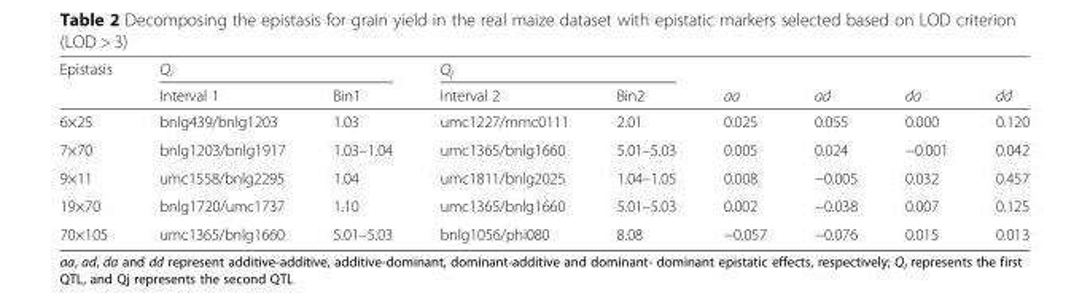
<table><thead><tr><td rowspan="2">Epistasis</td><td colspan="2">Q<sub>i</sub></td><td colspan="2">Q<sub>j</sub></td><td rowspan="2">aa</td><td rowspan="2">ad</td><td rowspan="2">da</td><td rowspan="2">dd</td></tr><tr><td>Interval 1</td><td>Bin1</td><td>Interval 2</td><td>Bin2</td></tr></thead><tbody><tr><td>6×25</td><td>bnlg439/bnlg1203</td><td>1.03</td><td>umc1227/mmc0111</td><td>2.01</td><td>0.025</td><td>0.055</td><td>0.000</td><td>0.120</td></tr><tr><td>7×70</td><td>bnlg1203/bnlg1917</td><td>1.03–1.04</td><td>umc1365/bnlg1660</td><td>5.01–5.03</td><td>0.005</td><td>0.024</td><td>−0.001</td><td>0.042</td></tr><tr><td>9×11</td><td>umc1558/bnlg2295</td><td>1.04</td><td>umc1811/bnlg2025</td><td>1.04–1.05</td><td>0.008</td><td>−0.005</td><td>0.032</td><td>0.457</td></tr><tr><td>19×70</td><td>bnlg1720/umc1737</td><td>1.10</td><td>umc1365/bnlg1660</td><td>5.01–5.03</td><td>0.002</td><td>−0.038</td><td>0.007</td><td>0.125</td></tr><tr><td>70×105</td><td>umc1365/bnlg1660</td><td>5.01–5.03</td><td>bnlg1056/phi080</td><td>8.08</td><td>−0.057</td><td>−0.076</td><td>0.015</td><td>0.013</td></tr></tbody></table>